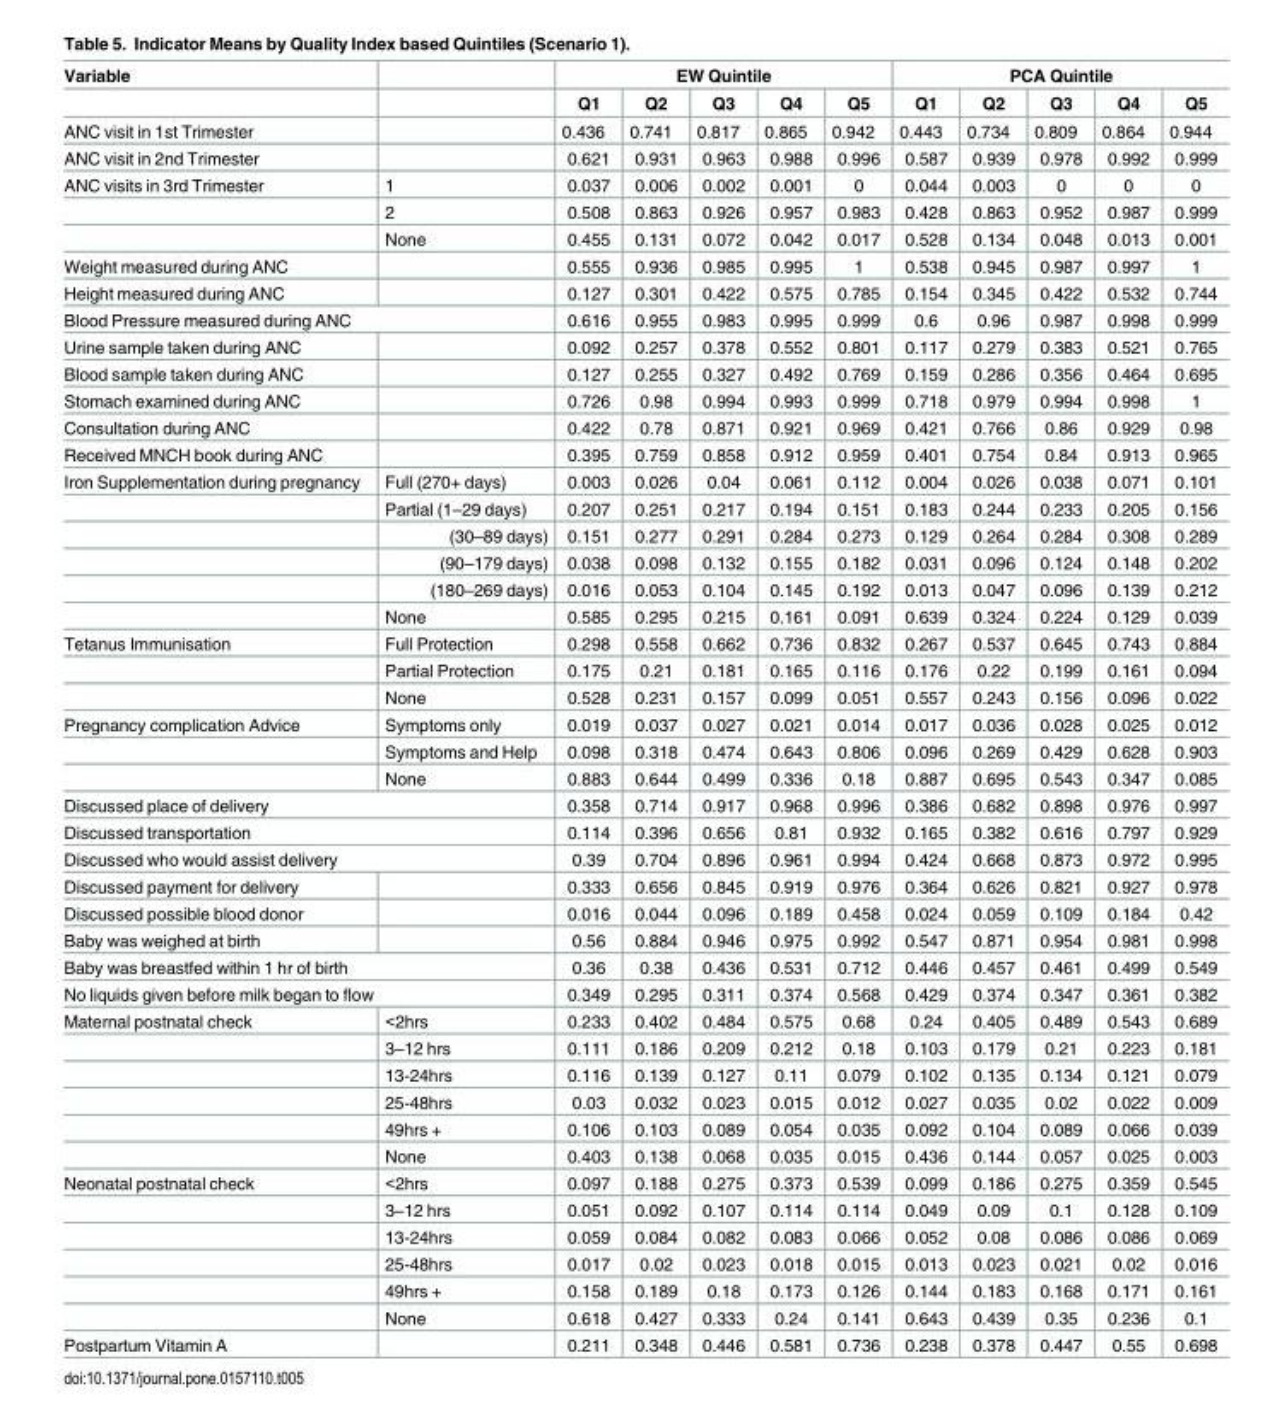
<table><thead><tr><td rowspan="2">Variable</td><td rowspan="2"></td><td colspan="5">EW Quintile</td><td colspan="5">PCA Quintile</td></tr><tr><td>Q1</td><td>Q2</td><td>Q3</td><td>Q4</td><td>Q5</td><td>Q1</td><td>Q2</td><td>Q3</td><td>Q4</td><td>Q5</td></tr></thead><tbody><tr><td>ANC visit in 1st Trimester</td><td></td><td>0.436</td><td>0.741</td><td>0.817</td><td>0.865</td><td>0.942</td><td>0.443</td><td>0.734</td><td>0.809</td><td>0.864</td><td>0.944</td></tr><tr><td>ANC visit in 2nd Trimester</td><td></td><td>0.621</td><td>0.931</td><td>0.963</td><td>0.988</td><td>0.996</td><td>0.587</td><td>0.939</td><td>0.978</td><td>0.992</td><td>0.999</td></tr><tr><td rowspan="3">ANC visits in 3rd Trimester</td><td>1</td><td>0.037</td><td>0.006</td><td>0.002</td><td>0.001</td><td>0</td><td>0.044</td><td>0.003</td><td>0</td><td>0</td><td>0</td></tr><tr><td>2</td><td>0.508</td><td>0.863</td><td>0.926</td><td>0.957</td><td>0.983</td><td>0.428</td><td>0.863</td><td>0.952</td><td>0.987</td><td>0.999</td></tr><tr><td>None</td><td>0.455</td><td>0.131</td><td>0.072</td><td>0.042</td><td>0.017</td><td>0.528</td><td>0.134</td><td>0.048</td><td>0.013</td><td>0.001</td></tr><tr><td>Weight measured during ANC</td><td></td><td>0.555</td><td>0.936</td><td>0.985</td><td>0.995</td><td>1</td><td>0.538</td><td>0.945</td><td>0.987</td><td>0.997</td><td>1</td></tr><tr><td>Height measured during ANC</td><td></td><td>0.127</td><td>0.301</td><td>0.422</td><td>0.575</td><td>0.785</td><td>0.154</td><td>0.345</td><td>0.422</td><td>0.532</td><td>0.744</td></tr><tr><td colspan="2">Blood Pressure measured during ANC</td><td>0.616</td><td>0.955</td><td>0.983</td><td>0.995</td><td>0.999</td><td>0.6</td><td>0.96</td><td>0.987</td><td>0.998</td><td>0.999</td></tr><tr><td>Urine sample taken during ANC</td><td></td><td>0.092</td><td>0.257</td><td>0.378</td><td>0.552</td><td>0.801</td><td>0.117</td><td>0.279</td><td>0.383</td><td>0.521</td><td>0.765</td></tr><tr><td>Blood sample taken during ANC</td><td></td><td>0.127</td><td>0.255</td><td>0.327</td><td>0.492</td><td>0.769</td><td>0.159</td><td>0.286</td><td>0.356</td><td>0.464</td><td>0.695</td></tr><tr><td>Stomach examined during ANC</td><td></td><td>0.726</td><td>0.98</td><td>0.994</td><td>0.993</td><td>0.999</td><td>0.718</td><td>0.979</td><td>0.994</td><td>0.998</td><td>1</td></tr><tr><td>Consultation during ANC</td><td></td><td>0.422</td><td>0.78</td><td>0.871</td><td>0.921</td><td>0.969</td><td>0.421</td><td>0.766</td><td>0.86</td><td>0.929</td><td>0.98</td></tr><tr><td>Received MNCH book during ANC</td><td></td><td>0.395</td><td>0.759</td><td>0.858</td><td>0.912</td><td>0.959</td><td>0.401</td><td>0.754</td><td>0.84</td><td>0.913</td><td>0.965</td></tr><tr><td rowspan="6">Iron Supplementation during pregnancy</td><td>Full (270+ days)</td><td>0.003</td><td>0.026</td><td>0.04</td><td>0.061</td><td>0.112</td><td>0.004</td><td>0.026</td><td>0.038</td><td>0.071</td><td>0.101</td></tr><tr><td>Partial (1–29 days)</td><td>0.207</td><td>0.251</td><td>0.217</td><td>0.194</td><td>0.151</td><td>0.183</td><td>0.244</td><td>0.233</td><td>0.205</td><td>0.156</td></tr><tr><td>(30–89 days)</td><td>0.151</td><td>0.277</td><td>0.291</td><td>0.284</td><td>0.273</td><td>0.129</td><td>0.264</td><td>0.284</td><td>0.308</td><td>0.289</td></tr><tr><td>(90–179 days)</td><td>0.038</td><td>0.098</td><td>0.132</td><td>0.155</td><td>0.182</td><td>0.031</td><td>0.096</td><td>0.124</td><td>0.148</td><td>0.202</td></tr><tr><td>(180–269 days)</td><td>0.016</td><td>0.053</td><td>0.104</td><td>0.145</td><td>0.192</td><td>0.013</td><td>0.047</td><td>0.096</td><td>0.139</td><td>0.212</td></tr><tr><td>None</td><td>0.585</td><td>0.295</td><td>0.215</td><td>0.161</td><td>0.091</td><td>0.639</td><td>0.324</td><td>0.224</td><td>0.129</td><td>0.039</td></tr><tr><td rowspan="3">Tetanus Immunisation</td><td>Full Protection</td><td>0.298</td><td>0.558</td><td>0.662</td><td>0.736</td><td>0.832</td><td>0.267</td><td>0.537</td><td>0.645</td><td>0.743</td><td>0.884</td></tr><tr><td>Partial Protection</td><td>0.175</td><td>0.21</td><td>0.181</td><td>0.165</td><td>0.116</td><td>0.176</td><td>0.22</td><td>0.199</td><td>0.161</td><td>0.094</td></tr><tr><td>None</td><td>0.528</td><td>0.231</td><td>0.157</td><td>0.099</td><td>0.051</td><td>0.557</td><td>0.243</td><td>0.156</td><td>0.096</td><td>0.022</td></tr><tr><td rowspan="3">Pregnancy complication Advice</td><td>Symptoms only</td><td>0.019</td><td>0.037</td><td>0.027</td><td>0.021</td><td>0.014</td><td>0.017</td><td>0.036</td><td>0.028</td><td>0.025</td><td>0.012</td></tr><tr><td>Symptoms and Help</td><td>0.098</td><td>0.318</td><td>0.474</td><td>0.643</td><td>0.806</td><td>0.096</td><td>0.269</td><td>0.429</td><td>0.628</td><td>0.903</td></tr><tr><td>None</td><td>0.883</td><td>0.644</td><td>0.499</td><td>0.336</td><td>0.18</td><td>0.887</td><td>0.695</td><td>0.543</td><td>0.347</td><td>0.085</td></tr><tr><td colspan="2">Discussed place of delivery</td><td>0.358</td><td>0.714</td><td>0.917</td><td>0.968</td><td>0.996</td><td>0.386</td><td>0.682</td><td>0.898</td><td>0.976</td><td>0.997</td></tr><tr><td colspan="2">Discussed transportation</td><td>0.114</td><td>0.396</td><td>0.656</td><td>0.81</td><td>0.932</td><td>0.165</td><td>0.382</td><td>0.616</td><td>0.797</td><td>0.929</td></tr><tr><td colspan="2">Discussed who would assist delivery</td><td>0.39</td><td>0.704</td><td>0.896</td><td>0.961</td><td>0.994</td><td>0.424</td><td>0.668</td><td>0.873</td><td>0.972</td><td>0.995</td></tr><tr><td>Discussed payment for delivery</td><td></td><td>0.333</td><td>0.656</td><td>0.845</td><td>0.919</td><td>0.976</td><td>0.364</td><td>0.626</td><td>0.821</td><td>0.927</td><td>0.978</td></tr><tr><td>Discussed possible blood donor</td><td></td><td>0.016</td><td>0.044</td><td>0.096</td><td>0.189</td><td>0.458</td><td>0.024</td><td>0.059</td><td>0.109</td><td>0.184</td><td>0.42</td></tr><tr><td>Baby was weighed at birth</td><td></td><td>0.56</td><td>0.884</td><td>0.946</td><td>0.975</td><td>0.992</td><td>0.547</td><td>0.871</td><td>0.954</td><td>0.981</td><td>0.998</td></tr><tr><td colspan="2">Baby was breastfed within 1 hr of birth</td><td>0.36</td><td>0.38</td><td>0.436</td><td>0.531</td><td>0.712</td><td>0.446</td><td>0.457</td><td>0.461</td><td>0.499</td><td>0.549</td></tr><tr><td colspan="2">No liquids given before milk began to flow</td><td>0.349</td><td>0.295</td><td>0.311</td><td>0.374</td><td>0.568</td><td>0.429</td><td>0.374</td><td>0.347</td><td>0.361</td><td>0.382</td></tr><tr><td rowspan="6">Maternal postnatal check</td><td>&lt;2hrs</td><td>0.233</td><td>0.402</td><td>0.484</td><td>0.575</td><td>0.68</td><td>0.24</td><td>0.405</td><td>0.489</td><td>0.543</td><td>0.689</td></tr><tr><td>3–12 hrs</td><td>0.111</td><td>0.186</td><td>0.209</td><td>0.212</td><td>0.18</td><td>0.103</td><td>0.179</td><td>0.21</td><td>0.223</td><td>0.181</td></tr><tr><td>13-24hrs</td><td>0.116</td><td>0.139</td><td>0.127</td><td>0.11</td><td>0.079</td><td>0.102</td><td>0.135</td><td>0.134</td><td>0.121</td><td>0.079</td></tr><tr><td>25-48hrs</td><td>0.03</td><td>0.032</td><td>0.023</td><td>0.015</td><td>0.012</td><td>0.027</td><td>0.035</td><td>0.02</td><td>0.022</td><td>0.009</td></tr><tr><td>49hrs +</td><td>0.106</td><td>0.103</td><td>0.089</td><td>0.054</td><td>0.035</td><td>0.092</td><td>0.104</td><td>0.089</td><td>0.066</td><td>0.039</td></tr><tr><td>None</td><td>0.403</td><td>0.138</td><td>0.068</td><td>0.035</td><td>0.015</td><td>0.436</td><td>0.144</td><td>0.057</td><td>0.025</td><td>0.003</td></tr><tr><td rowspan="6">Neonatal postnatal check</td><td>&lt;2hrs</td><td>0.097</td><td>0.188</td><td>0.275</td><td>0.373</td><td>0.539</td><td>0.099</td><td>0.186</td><td>0.275</td><td>0.359</td><td>0.545</td></tr><tr><td>3–12 hrs</td><td>0.051</td><td>0.092</td><td>0.107</td><td>0.114</td><td>0.114</td><td>0.049</td><td>0.09</td><td>0.1</td><td>0.128</td><td>0.109</td></tr><tr><td>13-24hrs</td><td>0.059</td><td>0.084</td><td>0.082</td><td>0.083</td><td>0.066</td><td>0.052</td><td>0.08</td><td>0.086</td><td>0.086</td><td>0.069</td></tr><tr><td>25-48hrs</td><td>0.017</td><td>0.02</td><td>0.023</td><td>0.018</td><td>0.015</td><td>0.013</td><td>0.023</td><td>0.021</td><td>0.02</td><td>0.016</td></tr><tr><td>49hrs +</td><td>0.158</td><td>0.189</td><td>0.18</td><td>0.173</td><td>0.126</td><td>0.144</td><td>0.183</td><td>0.168</td><td>0.171</td><td>0.161</td></tr><tr><td>None</td><td>0.618</td><td>0.427</td><td>0.333</td><td>0.24</td><td>0.141</td><td>0.643</td><td>0.439</td><td>0.35</td><td>0.236</td><td>0.1</td></tr><tr><td>Postpartum Vitamin A</td><td></td><td>0.211</td><td>0.348</td><td>0.446</td><td>0.581</td><td>0.736</td><td>0.238</td><td>0.378</td><td>0.447</td><td>0.55</td><td>0.698</td></tr></tbody></table>